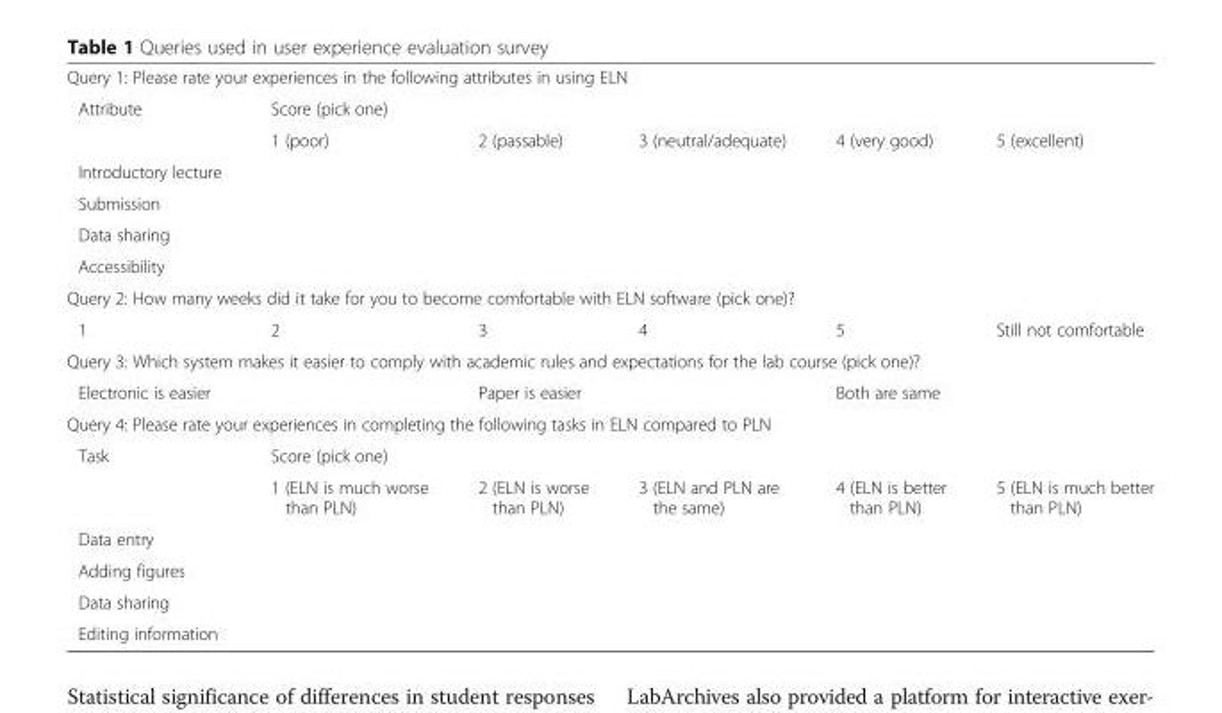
<table><tbody><tr><td colspan="6">Query 1: Please rate your experiences in the following attributes in using ELN</td></tr><tr><td rowspan="2">Attribute</td><td colspan="5">Score (pick one)</td></tr><tr><td>1 (poor)</td><td>2 (passable)</td><td>3 (neutral/adequate)</td><td>4 (very good)</td><td>5 (excellent)</td></tr><tr><td colspan="6">Introductory lecture</td></tr><tr><td colspan="6">Submission</td></tr><tr><td colspan="6">Data sharing</td></tr><tr><td colspan="6">Accessibility</td></tr><tr><td colspan="6">Query 2: How many weeks did it take for you to become comfortable with ELN software (pick one)?</td></tr><tr><td>1</td><td>2</td><td>3</td><td>4</td><td>5</td><td>Still not comfortable</td></tr><tr><td colspan="6">Query 3: Which system makes it easier to comply with academic rules and expectations for the lab course (pick one)?</td></tr><tr><td colspan="2">Electronic is easier</td><td colspan="2">Paper is easier</td><td colspan="2">Both are same</td></tr><tr><td colspan="6">Query 4: Please rate your experiences in completing the following tasks in ELN compared to PLN</td></tr><tr><td rowspan="2">Task</td><td colspan="5">Score (pick one)</td></tr><tr><td>1 (ELN is much worse than PLN)</td><td>2 (ELN is worse than PLN)</td><td>3 (ELN and PLN are the same)</td><td>4 (ELN is better than PLN)</td><td>5 (ELN is much better than PLN)</td></tr><tr><td colspan="6">Data entry</td></tr><tr><td colspan="6">Adding figures</td></tr><tr><td colspan="6">Data sharing</td></tr><tr><td>Editing information</td><td></td><td></td><td></td><td></td><td></td></tr></tbody></table>